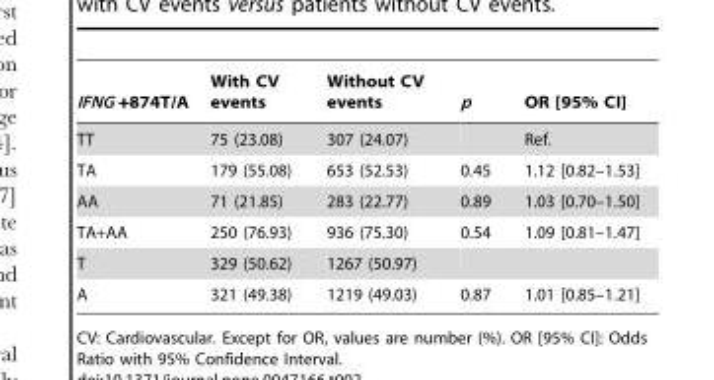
<table><thead><tr><td>IFNG +874T/A</td><td>With CV events</td><td>Without CV events</td><td>p</td><td>OR [95% CI]</td></tr></thead><tbody><tr><td>TT</td><td>75 (23.08)</td><td>307 (24.07)</td><td></td><td>Ref.</td></tr><tr><td>TA</td><td>179 (55.08)</td><td>653 (52.53)</td><td>0.45</td><td>1.12 [0.82–1.53]</td></tr><tr><td>AA</td><td>71 (21.85)</td><td>283 (22.77)</td><td>0.89</td><td>1.03 [0.70–1.50]</td></tr><tr><td>TA+AA</td><td>250 (76.93)</td><td>936 (75.30)</td><td>0.54</td><td>1.09 [0.81–1.47]</td></tr><tr><td>T</td><td>329 (50.62)</td><td>1267 (50.97)</td><td></td><td></td></tr><tr><td>A</td><td>321 (49.38)</td><td>1219 (49.03)</td><td>0.87</td><td>1.01 [0.85–1.21]</td></tr></tbody></table>